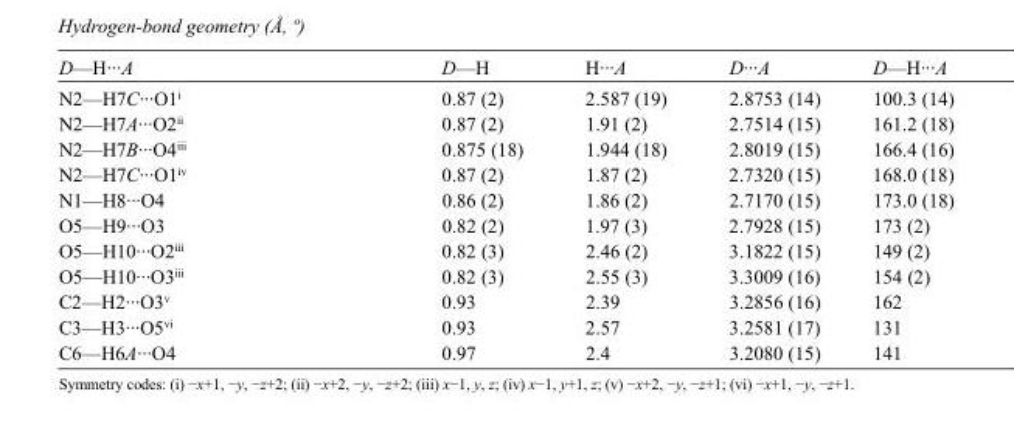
<table><tbody><tr><td>D—H···A</td><td>D—H</td><td>H···A</td><td>D···A</td><td>D—H···A</td></tr><tr><td>N2—H7C···O1<sup>i</sup></td><td>0.87 (2)</td><td>2.587 (19)</td><td>2.8753 (14)</td><td>100.3 (14)</td></tr><tr><td>N2—H7A···O2<sup>ii</sup></td><td>0.87 (2)</td><td>1.91 (2)</td><td>2.7514 (15)</td><td>161.2 (18)</td></tr><tr><td>N2—H7B···O4<sup>iii</sup></td><td>0.875 (18)</td><td>1.944 (18)</td><td>2.8019 (15)</td><td>166.4 (16)</td></tr><tr><td>N2—H7C···O1<sup>iv</sup></td><td>0.87 (2)</td><td>1.87 (2)</td><td>2.7320 (15)</td><td>168.0 (18)</td></tr><tr><td>N1—H8···O4</td><td>0.86 (2)</td><td>1.86 (2)</td><td>2.7170 (15)</td><td>173.0 (18)</td></tr><tr><td>O5—H9···O3</td><td>0.82 (2)</td><td>1.97 (3)</td><td>2.7928 (15)</td><td>173 (2)</td></tr><tr><td>O5—H10···O2<sup>iii</sup></td><td>0.82 (3)</td><td>2.46 (2)</td><td>3.1822 (15)</td><td>149 (2)</td></tr><tr><td>O5—H10···O3<sup>iii</sup></td><td>0.82 (3)</td><td>2.55 (3)</td><td>3.3009 (16)</td><td>154 (2)</td></tr><tr><td>C2—H2···O3<sup>v</sup></td><td>0.93</td><td>2.39</td><td>3.2856 (16)</td><td>162</td></tr><tr><td>C3—H3···O5<sup>vi</sup></td><td>0.93</td><td>2.57</td><td>3.2581 (17)</td><td>131</td></tr><tr><td>C6—H6A···O4</td><td>0.97</td><td>2.4</td><td>3.2080 (15)</td><td>141</td></tr></tbody></table>